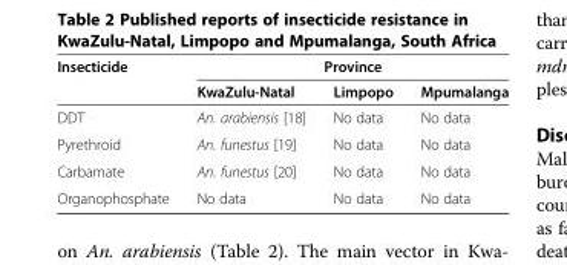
<table><thead><tr><td rowspan="2">Insecticide</td><td rowspan="2">KwaZulu-Natal</td><td rowspan="2">Province Limpopo</td><td rowspan="2">Mpumalanga</td></tr><tr></tr></thead><tbody><tr><td>DDT</td><td>An. arabiensis [18]</td><td>No data</td><td>No data</td></tr><tr><td>Pyrethroid</td><td>An. funestus [19]</td><td>No data</td><td>No data</td></tr><tr><td>Carbamate</td><td>An. funestus [20]</td><td>No data</td><td>No data</td></tr><tr><td>Organophosphate</td><td>No data</td><td>No data</td><td>No data</td></tr></tbody></table>